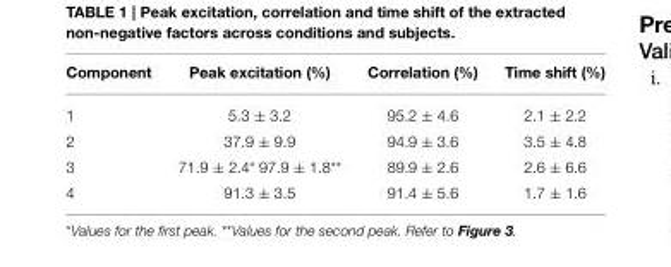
<table><thead><tr><td>Component</td><td>Peak excitation (%)</td><td>Correlation (%)</td><td>Time shift (%)</td></tr></thead><tbody><tr><td>1</td><td>5.3 ± 3.2</td><td>95.2 ± 4.6</td><td>2.1 ± 2.2</td></tr><tr><td>2</td><td>37.9 ± 9.9</td><td>94.9 ± 3.6</td><td>3.5 ± 4.8</td></tr><tr><td>3</td><td>71.9 ± 2.4* 97.9 ± 1.8**</td><td>89.9 ± 2.6</td><td>2.6 ± 6.6</td></tr><tr><td>4</td><td>91.3 ± 3.5</td><td>91.4 ± 5.6</td><td>1.7 ± 1.6</td></tr></tbody></table>